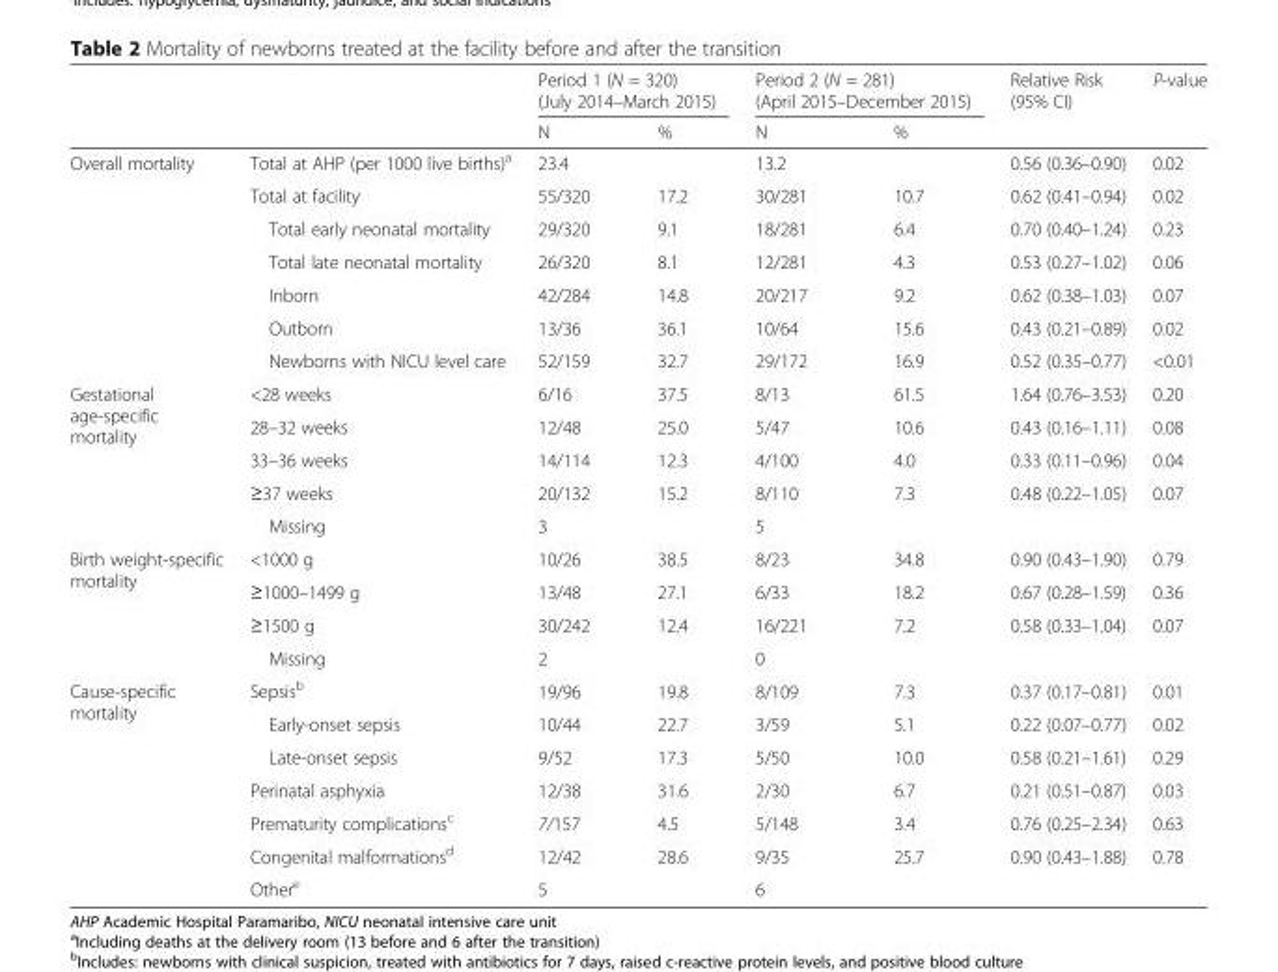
<table><thead><tr><td rowspan="2"></td><td rowspan="2"></td><td colspan="2">Period 1 (N = 320) (July 2014–March 2015)</td><td colspan="2">Period 2 (N = 281) (April 2015–December 2015)</td><td rowspan="2">Relative Risk (95% CI)</td><td rowspan="2">P-value</td></tr><tr><td>N</td><td>%</td><td>N</td><td>%</td></tr></thead><tbody><tr><td rowspan="7">Overall mortality</td><td>Total at AHP (per 1000 live births)<sup>a</sup></td><td>23.4</td><td></td><td>13.2</td><td></td><td>0.56 (0.36–0.90)</td><td>0.02</td></tr><tr><td>Total at facility</td><td>55/320</td><td>17.2</td><td>30/281</td><td>10.7</td><td>0.62 (0.41–0.94)</td><td>0.02</td></tr><tr><td>Total early neonatal mortality</td><td>29/320</td><td>9.1</td><td>18/281</td><td>6.4</td><td>0.70 (0.40–1.24)</td><td>0.23</td></tr><tr><td>Total late neonatal mortality</td><td>26/320</td><td>8.1</td><td>12/281</td><td>4.3</td><td>0.53 (0.27–1.02)</td><td>0.06</td></tr><tr><td>Inborn</td><td>42/284</td><td>14.8</td><td>20/217</td><td>9.2</td><td>0.62 (0.38–1.03)</td><td>0.07</td></tr><tr><td>Outborn</td><td>13/36</td><td>36.1</td><td>10/64</td><td>15.6</td><td>0.43 (0.21–0.89)</td><td>0.02</td></tr><tr><td>Newborns with NICU level care</td><td>52/159</td><td>32.7</td><td>29/172</td><td>16.9</td><td>0.52 (0.35–0.77)</td><td>&lt;0.01</td></tr><tr><td rowspan="5">Gestational age-specific mortality</td><td>&lt;28 weeks</td><td>6/16</td><td>37.5</td><td>8/13</td><td>61.5</td><td>1.64 (0.76–3.53)</td><td>0.20</td></tr><tr><td>28–32 weeks</td><td>12/48</td><td>25.0</td><td>5/47</td><td>10.6</td><td>0.43 (0.16–1.11)</td><td>0.08</td></tr><tr><td>33–36 weeks</td><td>14/114</td><td>12.3</td><td>4/100</td><td>4.0</td><td>0.33 (0.11–0.96)</td><td>0.04</td></tr><tr><td>≥37 weeks</td><td>20/132</td><td>15.2</td><td>8/110</td><td>7.3</td><td>0.48 (0.22–1.05)</td><td>0.07</td></tr><tr><td>Missing</td><td>3</td><td></td><td>5</td><td></td><td></td><td></td></tr><tr><td rowspan="4">Birth weight-specific mortality</td><td>&lt;1000 g</td><td>10/26</td><td>38.5</td><td>8/23</td><td>34.8</td><td>0.90 (0.43–1.90)</td><td>0.79</td></tr><tr><td>≥1000–1499 g</td><td>13/48</td><td>27.1</td><td>6/33</td><td>18.2</td><td>0.67 (0.28–1.59)</td><td>0.36</td></tr><tr><td>≥1500 g</td><td>30/242</td><td>12.4</td><td>16/221</td><td>7.2</td><td>0.58 (0.33–1.04)</td><td>0.07</td></tr><tr><td>Missing</td><td>2</td><td></td><td>0</td><td></td><td></td><td></td></tr><tr><td rowspan="7">Cause-specific mortality</td><td>Sepsis<sup>b</sup></td><td>19/96</td><td>19.8</td><td>8/109</td><td>7.3</td><td>0.37 (0.17–0.81)</td><td>0.01</td></tr><tr><td>Early-onset sepsis</td><td>10/44</td><td>22.7</td><td>3/59</td><td>5.1</td><td>0.22 (0.07–0.77)</td><td>0.02</td></tr><tr><td>Late-onset sepsis</td><td>9/52</td><td>17.3</td><td>5/50</td><td>10.0</td><td>0.58 (0.21–1.61)</td><td>0.29</td></tr><tr><td>Perinatal asphyxia</td><td>12/38</td><td>31.6</td><td>2/30</td><td>6.7</td><td>0.21 (0.51–0.87)</td><td>0.03</td></tr><tr><td>Prematurity complications<sup>c</sup></td><td>7/157</td><td>4.5</td><td>5/148</td><td>3.4</td><td>0.76 (0.25–2.34)</td><td>0.63</td></tr><tr><td>Congenital malformations<sup>d</sup></td><td>12/42</td><td>28.6</td><td>9/35</td><td>25.7</td><td>0.90 (0.43–1.88)</td><td>0.78</td></tr><tr><td>Other<sup>e</sup></td><td>5</td><td></td><td>6</td><td></td><td></td><td></td></tr></tbody></table>